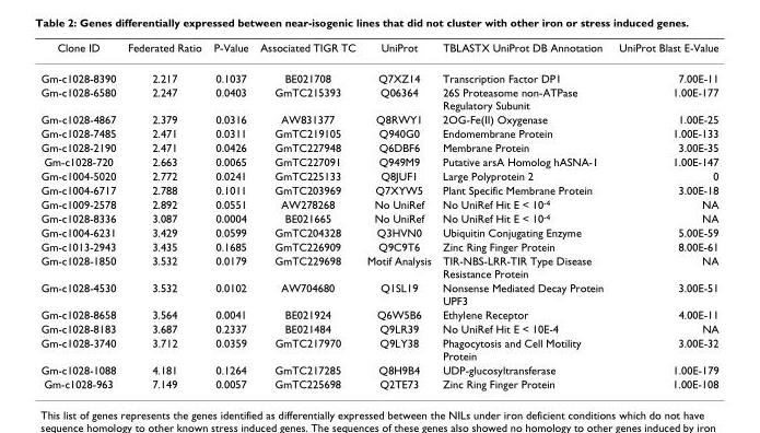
<table><thead><tr><td>Clone ID</td><td>Federated Ratio</td><td>P-Value</td><td>Associated TIGR TC</td><td>UniProt</td><td>TBLASTX UniProt DB Annotation</td><td>UniProt Blast E-Value</td></tr></thead><tbody><tr><td>Gm-c1028-8390</td><td>2.217</td><td>0.1037</td><td>BE021708</td><td>Q7XZ14</td><td>Transcription Factor DP1</td><td>7.00E-11</td></tr><tr><td>Gm-c1028-6580</td><td>2.247</td><td>0.0403</td><td>GmTC215393</td><td>Q06364</td><td>26S Proteasome non-ATPase Regulatory Subunit</td><td>1.00E-177</td></tr><tr><td>Gm-c1028-4867</td><td>2.379</td><td>0.0316</td><td>AW831377</td><td>Q8RWY1</td><td>2OG-Fe(II) Oxygenase</td><td>1.00E-25</td></tr><tr><td>Gm-c1028-7485</td><td>2.471</td><td>0.0311</td><td>GmTC219105</td><td>Q940G0</td><td>Endomembrane Protein</td><td>1.00E-133</td></tr><tr><td>Gm-c1028-2190</td><td>2.471</td><td>0.0426</td><td>GmTC227948</td><td>Q6DBF6</td><td>Membrane Protein</td><td>3.00E-35</td></tr><tr><td>Gm-c1028-720</td><td>2.663</td><td>0.0065</td><td>GmTC227091</td><td>Q949M9</td><td>Putative arsA Homolog hASNA-1</td><td>1.00E-147</td></tr><tr><td>Gm-c1004-5020</td><td>2.772</td><td>0.0241</td><td>GmTC225133</td><td>Q8JUF1</td><td>Large Polyprotein 2</td><td>0</td></tr><tr><td>Gm-c1004-6717</td><td>2.788</td><td>0.1011</td><td>GmTC203969</td><td>Q7XYW5</td><td>Plant Specific Membrane Protein</td><td>3.00E-18</td></tr><tr><td>Gm-c1009-2578</td><td>2.892</td><td>0.0551</td><td>AW278268</td><td>No UniRef</td><td>No UniRef Hit E &lt; 10<sup>-4</sup></td><td>NA</td></tr><tr><td>Gm-c1028-8336</td><td>3.087</td><td>0.0004</td><td>BE021665</td><td>No UniRef</td><td>No UniRef Hit E &lt; 10<sup>-4</sup></td><td>NA</td></tr><tr><td>Gm-c1004-6231</td><td>3.429</td><td>0.0599</td><td>GmTC204328</td><td>Q3HVN0</td><td>Ubiquitin Conjugating Enzyme</td><td>5.00E-59</td></tr><tr><td>Gm-c1013-2943</td><td>3.435</td><td>0.1685</td><td>GmTC226909</td><td>Q9C9T6</td><td>Zinc Ring Finger Protein</td><td>8.00E-61</td></tr><tr><td>Gm-c1028-1850</td><td>3.532</td><td>0.0179</td><td>GmTC229698</td><td>Motif Analysis</td><td>TIR-NBS-LRR-TIR Type Disease Resistance Protein</td><td>NA</td></tr><tr><td>Gm-c1028-4530</td><td>3.532</td><td>0.0102</td><td>AW704680</td><td>Q1SL19</td><td>Nonsense Mediated Decay Protein UPF3</td><td>3.00E-51</td></tr><tr><td>Gm-c1028-8658</td><td>3.564</td><td>0.0041</td><td>BE021924</td><td>Q6W5B6</td><td>Ethylene Receptor</td><td>4.00E-11</td></tr><tr><td>Gm-c1028-8183</td><td>3.687</td><td>0.2337</td><td>BE021484</td><td>Q9LR39</td><td>No UniRef Hit E &lt; 10E-4</td><td>NA</td></tr><tr><td>Gm-c1028-3740</td><td>3.712</td><td>0.0359</td><td>GmTC217970</td><td>Q9LY38</td><td>Phagocytosis and Cell Motility Protein</td><td>3.00E-32</td></tr><tr><td>Gm-c1028-1088</td><td>4.181</td><td>0.1264</td><td>GmTC217285</td><td>Q8H9B4</td><td>UDP-glucosyltransferase</td><td>1.00E-179</td></tr><tr><td>Gm-c1028-963</td><td>7.149</td><td>0.0057</td><td>GmTC225698</td><td>Q2TE73</td><td>Zinc Ring Finger Protein</td><td>1.00E-108</td></tr></tbody></table>